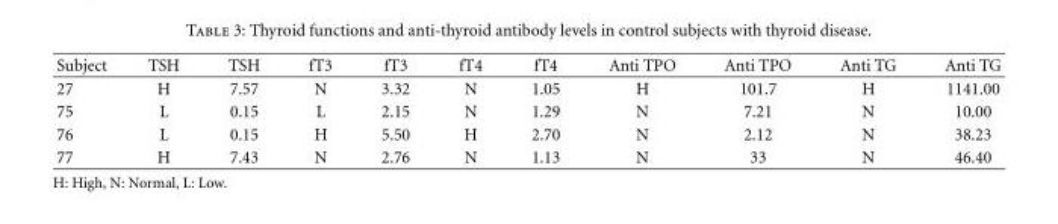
<table><thead><tr><td>Subject</td><td>TSH</td><td>TSH</td><td>fT3</td><td>fT3</td><td>fT4</td><td>fT4</td><td>Anti TPO</td><td>Anti TPO</td><td>Anti TG</td><td>Anti TG</td></tr></thead><tbody><tr><td>27</td><td>H</td><td>7.57</td><td>N</td><td>3.32</td><td>N</td><td>1.05</td><td>H</td><td>101.7</td><td>H</td><td>1141.00</td></tr><tr><td>75</td><td>L</td><td>0.15</td><td>L</td><td>2.15</td><td>N</td><td>1.29</td><td>N</td><td>7.21</td><td>N</td><td>10.00</td></tr><tr><td>76</td><td>L</td><td>0.15</td><td>H</td><td>5.50</td><td>H</td><td>2.70</td><td>N</td><td>2.12</td><td>N</td><td>38.23</td></tr><tr><td>77</td><td>H</td><td>7.43</td><td>N</td><td>2.76</td><td>N</td><td>1.13</td><td>N</td><td>33</td><td>N</td><td>46.40</td></tr></tbody></table>